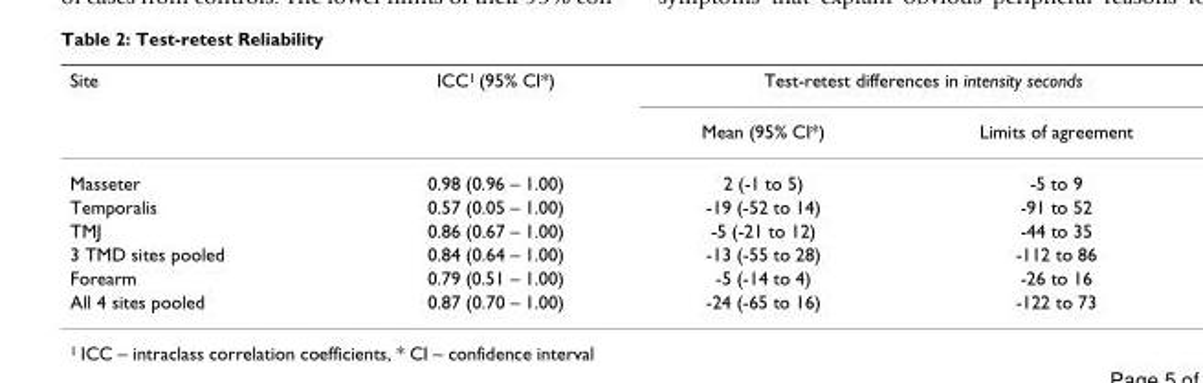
<table><thead><tr><td rowspan="2">Site</td><td rowspan="2">ICC<sup>1</sup> (95% CI*)</td><td colspan="2">Test-retest differences in intensity seconds</td></tr><tr><td>Mean (95% CI*)</td><td>Limits of agreement</td></tr></thead><tbody><tr><td>Masseter</td><td>0.98 (0.96 – 1.00)</td><td>2 (-1 to 5)</td><td>-5 to 9</td></tr><tr><td>Temporalis</td><td>0.57 (0.05 – 1.00)</td><td>-19 (-52 to 14)</td><td>-91 to 52</td></tr><tr><td>TMJ</td><td>0.86 (0.67 – 1.00)</td><td>-5 (-21 to 12)</td><td>-44 to 35</td></tr><tr><td>3 TMD sites pooled</td><td>0.84 (0.64 – 1.00)</td><td>-13 (-55 to 28)</td><td>-112 to 86</td></tr><tr><td>Forearm</td><td>0.79 (0.51 – 1.00)</td><td>-5 (-14 to 4)</td><td>-26 to 16</td></tr><tr><td>All 4 sites pooled</td><td>0.87 (0.70 – 1.00)</td><td>-24 (-65 to 16)</td><td>-122 to 73</td></tr></tbody></table>